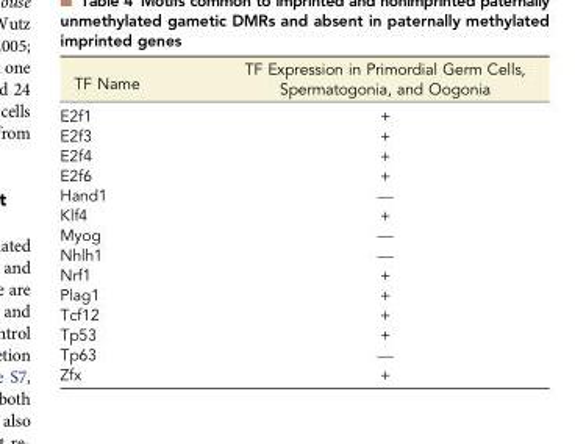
<table><thead><tr><td>TF Name</td><td>TF Expression in Primordial Germ Cells, Spermatogonia, and Oogonia</td></tr></thead><tbody><tr><td>E2f1</td><td>+</td></tr><tr><td>E2f3</td><td>+</td></tr><tr><td>E2f4</td><td>+</td></tr><tr><td>E2f6</td><td>+</td></tr><tr><td>Hand1</td><td>—</td></tr><tr><td>Klf4</td><td>+</td></tr><tr><td>Myog</td><td>—</td></tr><tr><td>Nhlh1</td><td>—</td></tr><tr><td>Nrf1</td><td>+</td></tr><tr><td>Plag1</td><td>+</td></tr><tr><td>Tcf12</td><td>+</td></tr><tr><td>Tp53</td><td>+</td></tr><tr><td>Tp63</td><td>—</td></tr><tr><td>Zfx</td><td>+</td></tr></tbody></table>